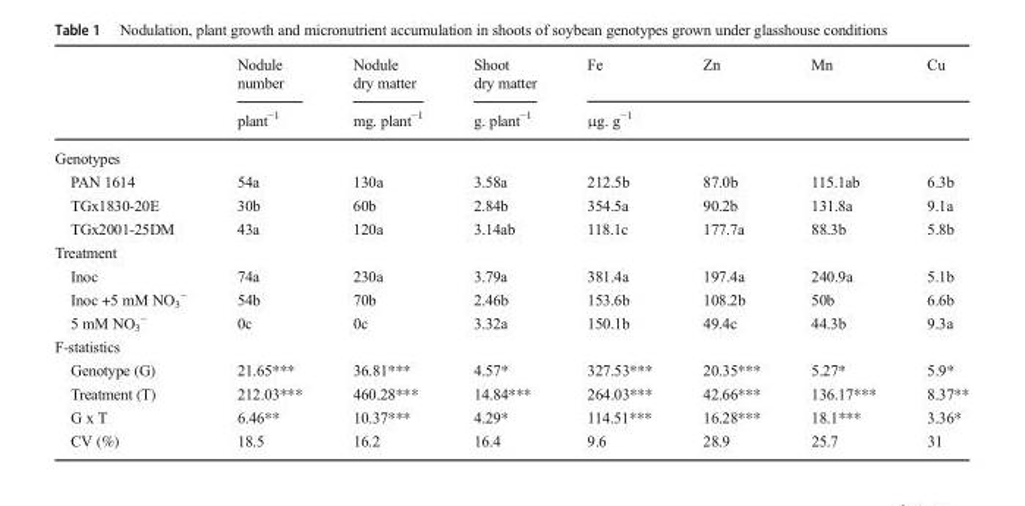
<table><thead><tr><td rowspan="2"></td><td rowspan="2">Nodule number plant<sup>−1</sup></td><td rowspan="2">Nodule dry matter mg. plant<sup>−1</sup></td><td rowspan="2">Shoot dry matter g. plant<sup>−1</sup></td><td>Fe</td><td>Zn</td><td>Mn</td><td>Cu</td></tr><tr><td colspan="4">μg. g<sup>−1</sup></td></tr></thead><tbody><tr><td colspan="8">Genotypes</td></tr><tr><td>PAN 1614</td><td>54a</td><td>130a</td><td>3.58a</td><td>212.5b</td><td>87.0b</td><td>115.1ab</td><td>6.3b</td></tr><tr><td>TGx1830-20E</td><td>30b</td><td>60b</td><td>2.84b</td><td>354.5a</td><td>90.2b</td><td>131.8a</td><td>9.1a</td></tr><tr><td>TGx2001-25DM</td><td>43a</td><td>120a</td><td>3.14ab</td><td>118.1c</td><td>177.7a</td><td>88.3b</td><td>5.8b</td></tr><tr><td colspan="8">Treatment</td></tr><tr><td>Inoc</td><td>74a</td><td>230a</td><td>3.79a</td><td>381.4a</td><td>197.4a</td><td>240.9a</td><td>5.1b</td></tr><tr><td>Inoc +5 mM NO<sub>3</sub> <sup>−</sup></td><td>54b</td><td>70b</td><td>2.46b</td><td>153.6b</td><td>108.2b</td><td>50b</td><td>6.6b</td></tr><tr><td>5 mM NO<sub>3</sub> <sup>−</sup></td><td>0c</td><td>0c</td><td>3.32a</td><td>150.1b</td><td>49.4c</td><td>44.3b</td><td>9.3a</td></tr><tr><td colspan="8">F-statistics</td></tr><tr><td>Genotype (G)</td><td>21.65***</td><td>36.81***</td><td>4.57*</td><td>327.53***</td><td>20.35***</td><td>5.27*</td><td>5.9*</td></tr><tr><td>Treatment (T)</td><td>212.03***</td><td>460.28***</td><td>14.84***</td><td>264.03***</td><td>42.66***</td><td>136.17***</td><td>8.37**</td></tr><tr><td>G x T</td><td>6.46**</td><td>10.37***</td><td>4.29*</td><td>114.51***</td><td>16.28***</td><td>18.1***</td><td>3.36*</td></tr><tr><td>CV (%)</td><td>18.5</td><td>16.2</td><td>16.4</td><td>9.6</td><td>28.9</td><td>25.7</td><td>31</td></tr></tbody></table>